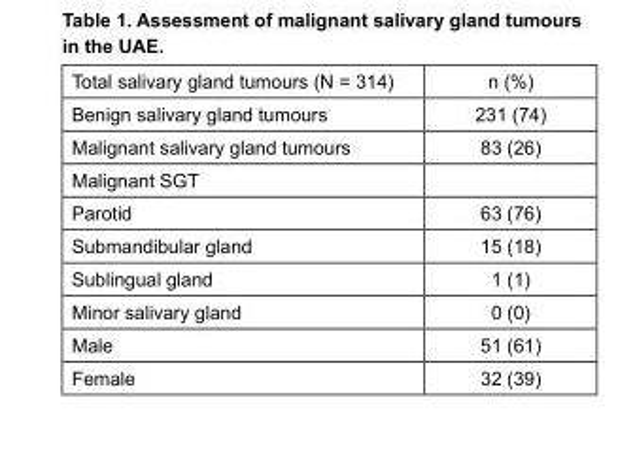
<table><thead><tr><td>Total salivary gland tumours (N = 314)</td><td>n (%)</td></tr></thead><tbody><tr><td>Benign salivary gland tumours</td><td>231 (74)</td></tr><tr><td>Malignant salivary gland tumours</td><td>83 (26)</td></tr><tr><td colspan="2">Malignant SGT</td></tr><tr><td>Parotid</td><td>63 (76)</td></tr><tr><td>Submandibular gland</td><td>15 (18)</td></tr><tr><td>Sublingual gland</td><td>1 (1)</td></tr><tr><td>Minor salivary gland</td><td>0 (0)</td></tr><tr><td>Male</td><td>51 (61)</td></tr><tr><td>Female</td><td>32 (39)</td></tr></tbody></table>